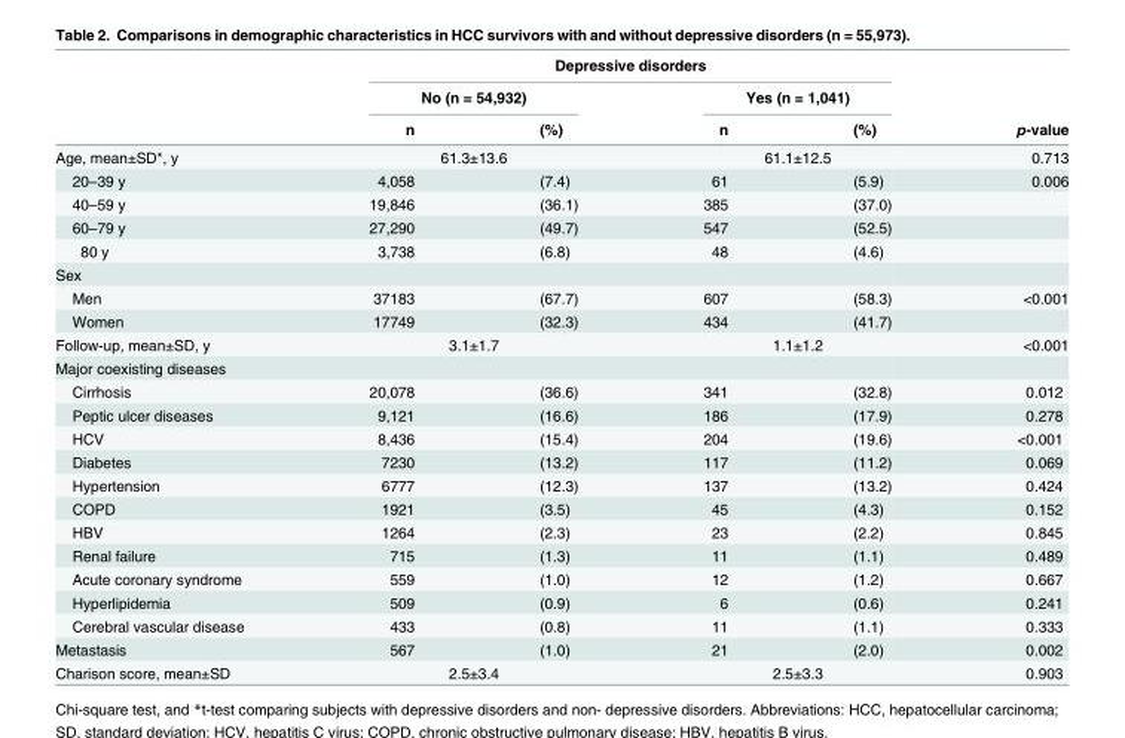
<table><thead><tr><td rowspan="3"></td><td colspan="4">Depressive disorders</td><td rowspan="3">p-value</td></tr><tr><td colspan="2">No (n = 54,932)</td><td colspan="2">Yes (n = 1,041)</td></tr><tr><td>n</td><td>(%)</td><td>n</td><td>(%)</td></tr></thead><tbody><tr><td>Age, mean±SD*, y</td><td colspan="2">61.3±13.6</td><td colspan="2">61.1±12.5</td><td>0.713</td></tr><tr><td>20–39 y</td><td>4,058</td><td>(7.4)</td><td>61</td><td>(5.9)</td><td>0.006</td></tr><tr><td>40–59 y</td><td>19,846</td><td>(36.1)</td><td>385</td><td>(37.0)</td><td></td></tr><tr><td>60–79 y</td><td>27,290</td><td>(49.7)</td><td>547</td><td>(52.5)</td><td></td></tr><tr><td>≧ 80 y</td><td>3,738</td><td>(6.8)</td><td>48</td><td>(4.6)</td><td></td></tr><tr><td colspan="6">Sex</td></tr><tr><td>Men</td><td>37183</td><td>(67.7)</td><td>607</td><td>(58.3)</td><td>&lt;0.001</td></tr><tr><td>Women</td><td>17749</td><td>(32.3)</td><td>434</td><td>(41.7)</td><td></td></tr><tr><td>Follow-up, mean±SD, y</td><td colspan="2">3.1±1.7</td><td colspan="2">1.1±1.2</td><td>&lt;0.001</td></tr><tr><td colspan="6">Major coexisting diseases</td></tr><tr><td>Cirrhosis</td><td>20,078</td><td>(36.6)</td><td>341</td><td>(32.8)</td><td>0.012</td></tr><tr><td>Peptic ulcer diseases</td><td>9,121</td><td>(16.6)</td><td>186</td><td>(17.9)</td><td>0.278</td></tr><tr><td>HCV</td><td>8,436</td><td>(15.4)</td><td>204</td><td>(19.6)</td><td>&lt;0.001</td></tr><tr><td>Diabetes</td><td>7230</td><td>(13.2)</td><td>117</td><td>(11.2)</td><td>0.069</td></tr><tr><td>Hypertension</td><td>6777</td><td>(12.3)</td><td>137</td><td>(13.2)</td><td>0.424</td></tr><tr><td>COPD</td><td>1921</td><td>(3.5)</td><td>45</td><td>(4.3)</td><td>0.152</td></tr><tr><td>HBV</td><td>1264</td><td>(2.3)</td><td>23</td><td>(2.2)</td><td>0.845</td></tr><tr><td>Renal failure</td><td>715</td><td>(1.3)</td><td>11</td><td>(1.1)</td><td>0.489</td></tr><tr><td>Acute coronary syndrome</td><td>559</td><td>(1.0)</td><td>12</td><td>(1.2)</td><td>0.667</td></tr><tr><td>Hyperlipidemia</td><td>509</td><td>(0.9)</td><td>6</td><td>(0.6)</td><td>0.241</td></tr><tr><td>Cerebral vascular disease</td><td>433</td><td>(0.8)</td><td>11</td><td>(1.1)</td><td>0.333</td></tr><tr><td>Metastasis</td><td>567</td><td>(1.0)</td><td>21</td><td>(2.0)</td><td>0.002</td></tr><tr><td>Charison score, mean±SD</td><td colspan="2">2.5±3.4</td><td colspan="2">2.5±3.3</td><td>0.903</td></tr></tbody></table>